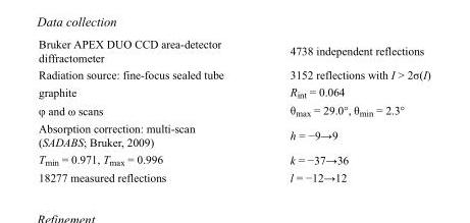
<table><tbody><tr><td>Bruker APEX DUO CCD area-detector diffractometer</td><td>4738 independent reflections</td></tr><tr><td>Radiation source: fine-focus sealed tube</td><td>3152 reflections with I &gt; 2σ(I)</td></tr><tr><td>graphite</td><td>R<sub>int</sub> = 0.064</td></tr><tr><td>φ and ω scans</td><td>θ<sub>max</sub> = 29.0°, θ<sub>min</sub> = 2.3°</td></tr><tr><td>Absorption correction: multi-scan (SADABS; Bruker, 2009)</td><td>h = −9→9</td></tr><tr><td>T<sub>min</sub> = 0.971, T<sub>max</sub> = 0.996</td><td>k = −37→36</td></tr><tr><td>18277 measured reflections</td><td>l = −12→12</td></tr></tbody></table>